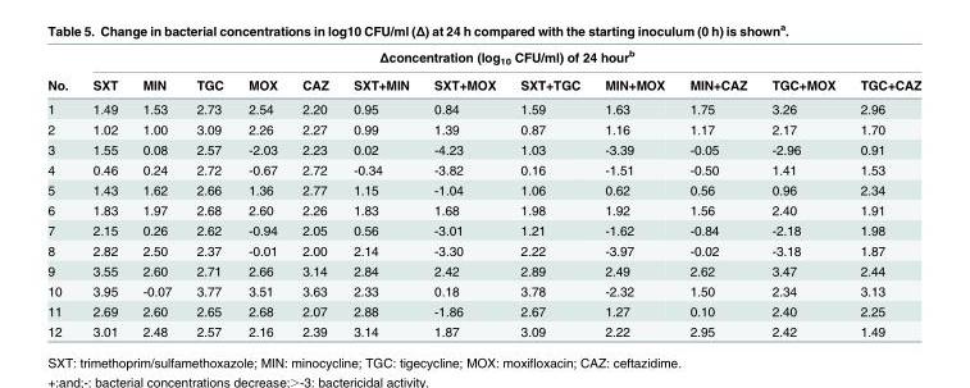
<table><thead><tr><td rowspan="2">No.</td><td colspan="12">Δconcentration (log<sub>10</sub> CFU/ml) of 24 hour<sup>b</sup></td></tr><tr><td>SXT</td><td>MIN</td><td>TGC</td><td>MOX</td><td>CAZ</td><td>SXT+MIN</td><td>SXT+MOX</td><td>SXT+TGC</td><td>MIN+MOX</td><td>MIN+CAZ</td><td>TGC+MOX</td><td>TGC+CAZ</td></tr></thead><tbody><tr><td>1</td><td>1.49</td><td>1.53</td><td>2.73</td><td>2.54</td><td>2.20</td><td>0.95</td><td>0.84</td><td>1.59</td><td>1.63</td><td>1.75</td><td>3.26</td><td>2.96</td></tr><tr><td>2</td><td>1.02</td><td>1.00</td><td>3.09</td><td>2.26</td><td>2.27</td><td>0.99</td><td>1.39</td><td>0.87</td><td>1.16</td><td>1.17</td><td>2.17</td><td>1.70</td></tr><tr><td>3</td><td>1.55</td><td>0.08</td><td>2.57</td><td>-2.03</td><td>2.23</td><td>0.02</td><td>-4.23</td><td>1.03</td><td>-3.39</td><td>-0.05</td><td>-2.96</td><td>0.91</td></tr><tr><td>4</td><td>0.46</td><td>0.24</td><td>2.72</td><td>-0.67</td><td>2.72</td><td>-0.34</td><td>-3.82</td><td>0.16</td><td>-1.51</td><td>-0.50</td><td>1.41</td><td>1.53</td></tr><tr><td>5</td><td>1.43</td><td>1.62</td><td>2.66</td><td>1.36</td><td>2.77</td><td>1.15</td><td>-1.04</td><td>1.06</td><td>0.62</td><td>0.56</td><td>0.96</td><td>2.34</td></tr><tr><td>6</td><td>1.83</td><td>1.97</td><td>2.68</td><td>2.60</td><td>2.26</td><td>1.83</td><td>1.68</td><td>1.98</td><td>1.92</td><td>1.56</td><td>2.40</td><td>1.91</td></tr><tr><td>7</td><td>2.15</td><td>0.26</td><td>2.62</td><td>-0.94</td><td>2.05</td><td>0.56</td><td>-3.01</td><td>1.21</td><td>-1.62</td><td>-0.84</td><td>-2.18</td><td>1.98</td></tr><tr><td>8</td><td>2.82</td><td>2.50</td><td>2.37</td><td>-0.01</td><td>2.00</td><td>2.14</td><td>-3.30</td><td>2.22</td><td>-3.97</td><td>-0.02</td><td>-3.18</td><td>1.87</td></tr><tr><td>9</td><td>3.55</td><td>2.60</td><td>2.71</td><td>2.66</td><td>3.14</td><td>2.84</td><td>2.42</td><td>2.89</td><td>2.49</td><td>2.62</td><td>3.47</td><td>2.44</td></tr><tr><td>10</td><td>3.95</td><td>-0.07</td><td>3.77</td><td>3.51</td><td>3.63</td><td>2.33</td><td>0.18</td><td>3.78</td><td>-2.32</td><td>1.50</td><td>2.34</td><td>3.13</td></tr><tr><td>11</td><td>2.69</td><td>2.60</td><td>2.65</td><td>2.68</td><td>2.07</td><td>2.88</td><td>-1.86</td><td>2.67</td><td>1.27</td><td>0.10</td><td>2.40</td><td>2.25</td></tr><tr><td>12</td><td>3.01</td><td>2.48</td><td>2.57</td><td>2.16</td><td>2.39</td><td>3.14</td><td>1.87</td><td>3.09</td><td>2.22</td><td>2.95</td><td>2.42</td><td>1.49</td></tr></tbody></table>